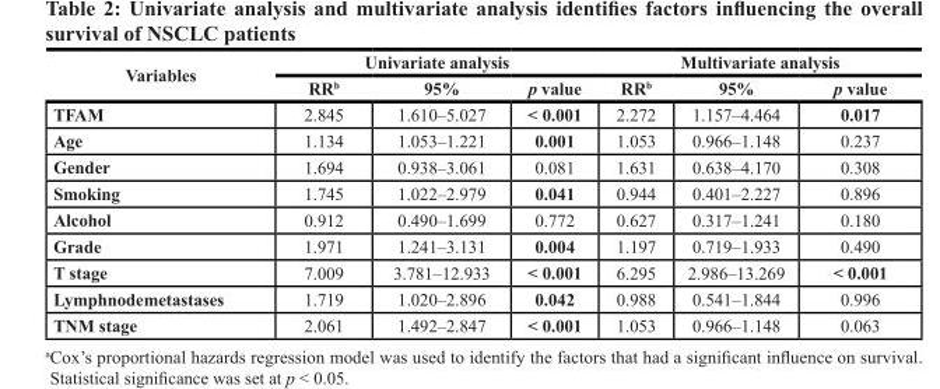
<table><thead><tr><td rowspan="2">Variables</td><td colspan="3">Univariate analysis</td><td colspan="3">Multivariate analysis</td></tr><tr><td>RR<sup>b</sup></td><td>95%</td><td>p value</td><td>RR<sup>b</sup></td><td>95%</td><td>p value</td></tr></thead><tbody><tr><td>TFAM</td><td>2.845</td><td>1.610–5.027</td><td>&lt; 0.001</td><td>2.272</td><td>1.157–4.464</td><td>0.017</td></tr><tr><td>Age</td><td>1.134</td><td>1.053–1.221</td><td>0.001</td><td>1.053</td><td>0.966–1.148</td><td>0.237</td></tr><tr><td>Gender</td><td>1.694</td><td>0.938–3.061</td><td>0.081</td><td>1.631</td><td>0.638–4.170</td><td>0.308</td></tr><tr><td>Smoking</td><td>1.745</td><td>1.022–2.979</td><td>0.041</td><td>0.944</td><td>0.401–2.227</td><td>0.896</td></tr><tr><td>Alcohol</td><td>0.912</td><td>0.490–1.699</td><td>0.772</td><td>0.627</td><td>0.317–1.241</td><td>0.180</td></tr><tr><td>Grade</td><td>1.971</td><td>1.241–3.131</td><td>0.004</td><td>1.197</td><td>0.719–1.933</td><td>0.490</td></tr><tr><td>T stage</td><td>7.009</td><td>3.781–12.933</td><td>&lt; 0.001</td><td>6.295</td><td>2.986–13.269</td><td>&lt; 0.001</td></tr><tr><td>Lymphnodemetastases</td><td>1.719</td><td>1.020–2.896</td><td>0.042</td><td>0.988</td><td>0.541–1.844</td><td>0.996</td></tr><tr><td>TNM stage</td><td>2.061</td><td>1.492–2.847</td><td>&lt; 0.001</td><td>1.053</td><td>0.966–1.148</td><td>0.063</td></tr></tbody></table>